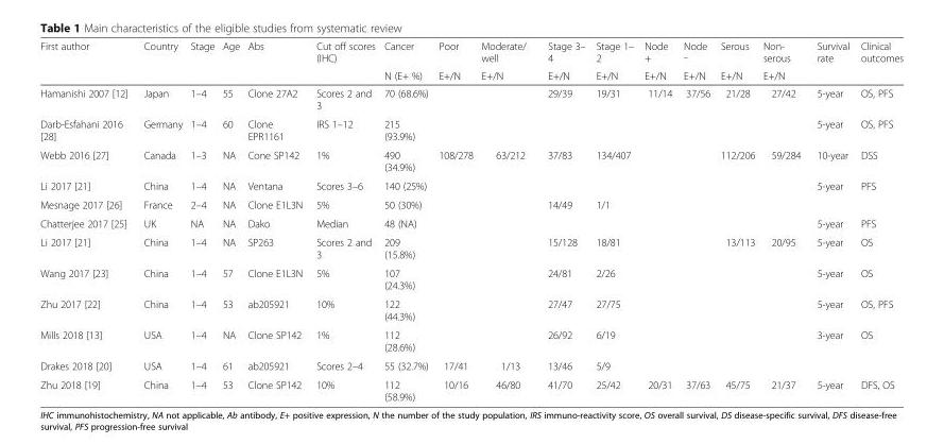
<table><thead><tr><td rowspan="2">First author</td><td rowspan="2">Country</td><td rowspan="2">Stage</td><td rowspan="2">Age</td><td rowspan="2">Abs</td><td rowspan="2">Cut off scores (IHC)</td><td rowspan="2">Cancer N (E+ %)</td><td rowspan="2">Poor E+/N</td><td rowspan="2">Moderate/ well E+/N</td><td rowspan="2">Stage 3– 4 E+/N</td><td rowspan="2">Stage 1– 2 E+/N</td><td rowspan="2">Node + E+/N</td><td rowspan="2">Node <sup>_</sup> E+/N</td><td rowspan="2">Serous E+/N</td><td rowspan="2">Non- serous E+/N</td><td rowspan="2">Survival rate</td><td rowspan="2">Clinical outcomes</td></tr><tr></tr></thead><tbody><tr><td>Hamanishi 2007 [12]</td><td>Japan</td><td>1–4</td><td>55</td><td>Clone 27A2</td><td>Scores 2 and 3</td><td>70 (68.6%)</td><td></td><td></td><td>29/39</td><td>19/31</td><td>11/14</td><td>37/56</td><td>21/28</td><td>27/42</td><td>5-year</td><td>OS, PFS</td></tr><tr><td>Darb-Esfahani 2016 [28]</td><td>Germany</td><td>1–4</td><td>60</td><td>Clone EPR1161</td><td>IRS 1–12</td><td>215 (93.9%)</td><td></td><td></td><td></td><td></td><td></td><td></td><td></td><td></td><td>5-year</td><td>OS, PFS</td></tr><tr><td>Webb 2016 [27]</td><td>Canada</td><td>1–3</td><td>NA</td><td>Cone SP142</td><td>1%</td><td>490 (34.9%)</td><td>108/278</td><td>63/212</td><td>37/83</td><td>134/407</td><td></td><td></td><td>112/206</td><td>59/284</td><td>10-year</td><td>DSS</td></tr><tr><td>Li 2017 [21]</td><td>China</td><td>1–4</td><td>NA</td><td>Ventana</td><td>Scores 3–6</td><td>140 (25%)</td><td></td><td></td><td></td><td></td><td></td><td></td><td></td><td></td><td>5-year</td><td>PFS</td></tr><tr><td>Mesnage 2017 [26]</td><td>France</td><td>2–4</td><td>NA</td><td>Clone E1L3N</td><td>5%</td><td>50 (30%)</td><td></td><td></td><td>14/49</td><td>1/1</td><td></td><td></td><td></td><td></td><td></td><td></td></tr><tr><td>Chatterjee 2017 [25]</td><td>UK</td><td>NA</td><td>NA</td><td>Dako</td><td>Median</td><td>48 (NA)</td><td></td><td></td><td></td><td></td><td></td><td></td><td></td><td></td><td>5-year</td><td>PFS</td></tr><tr><td>Li 2017 [21]</td><td>China</td><td>1–4</td><td>NA</td><td>SP263</td><td>Scores 2 and 3</td><td>209 (15.8%)</td><td></td><td></td><td>15/128</td><td>18/81</td><td></td><td></td><td>13/113</td><td>20/95</td><td>5-year</td><td>OS</td></tr><tr><td>Wang 2017 [23]</td><td>China</td><td>1–4</td><td>57</td><td>Clone E1L3N</td><td>5%</td><td>107 (24.3%)</td><td></td><td></td><td>24/81</td><td>2/26</td><td></td><td></td><td></td><td></td><td>5-year</td><td>OS</td></tr><tr><td>Zhu 2017 [22]</td><td>China</td><td>1–4</td><td>53</td><td>ab205921</td><td>10%</td><td>122 (44.3%)</td><td></td><td></td><td>27/47</td><td>27/75</td><td></td><td></td><td></td><td></td><td>5-year</td><td>OS, PFS</td></tr><tr><td>Mills 2018 [13]</td><td>USA</td><td>1–4</td><td>NA</td><td>Clone SP142</td><td>1%</td><td>112 (28.6%)</td><td></td><td></td><td>26/92</td><td>6/19</td><td></td><td></td><td></td><td></td><td>3-year</td><td>OS</td></tr><tr><td>Drakes 2018 [20]</td><td>USA</td><td>1–4</td><td>61</td><td>ab205921</td><td>Scores 2–4</td><td>55 (32.7%)</td><td>17/41</td><td>1/13</td><td>13/46</td><td>5/9</td><td></td><td></td><td></td><td></td><td></td><td></td></tr><tr><td>Zhu 2018 [19]</td><td>China</td><td>1–4</td><td>53</td><td>Clone SP142</td><td>10%</td><td>112 (58.9%)</td><td>10/16</td><td>46/80</td><td>41/70</td><td>25/42</td><td>20/31</td><td>37/63</td><td>45/75</td><td>21/37</td><td>5-year</td><td>DFS, OS</td></tr></tbody></table>